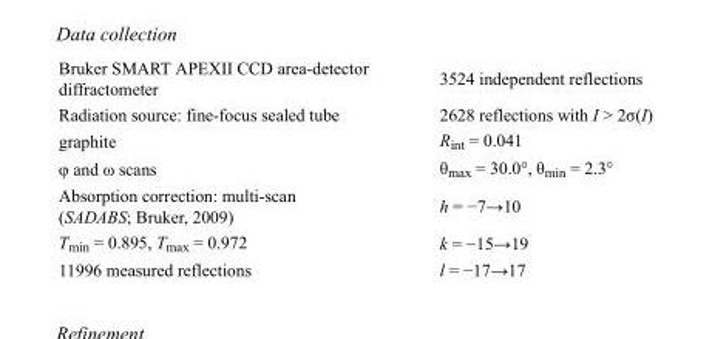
<table><tbody><tr><td>Bruker SMART APEXII CCD area-detector diffractometer</td><td>3524 independent reflections</td></tr><tr><td>Radiation source: fine-focus sealed tube</td><td>2628 reflections with I &gt; 2σ(I)</td></tr><tr><td>graphite</td><td>R<sub>int</sub> = 0.041</td></tr><tr><td>φ and ω scans</td><td>θ<sub>max</sub> = 30.0°, θ<sub>min</sub> = 2.3°</td></tr><tr><td>Absorption correction: multi-scan (SADABS; Bruker, 2009)</td><td>h = −7→10</td></tr><tr><td>T<sub>min</sub> = 0.895, T<sub>max</sub> = 0.972</td><td>k = −15→19</td></tr><tr><td>11996 measured reflections</td><td>l = −17→17</td></tr></tbody></table>